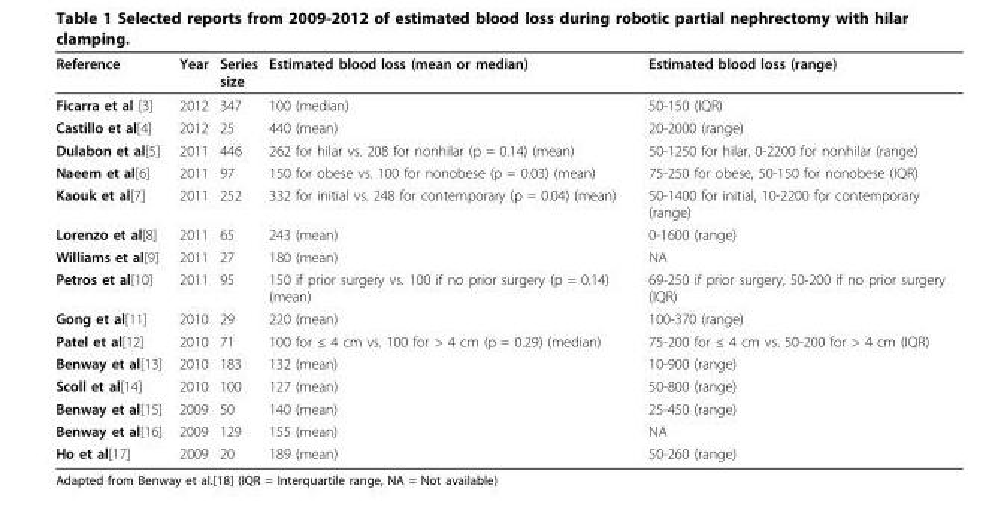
<table><thead><tr><td>Reference</td><td>Year</td><td>Series size</td><td>Estimated blood loss (mean or median)</td><td>Estimated blood loss (range)</td></tr></thead><tbody><tr><td>Ficarra et al [3]</td><td>2012</td><td>347</td><td>100 (median)</td><td>50-150 (IQR)</td></tr><tr><td>Castillo et al[4]</td><td>2012</td><td>25</td><td>440 (mean)</td><td>20-2000 (range)</td></tr><tr><td>Dulabon et al[5]</td><td>2011</td><td>446</td><td>262 for hilar vs. 208 for nonhilar (p = 0.14) (mean)</td><td>50-1250 for hilar, 0-2200 for nonhilar (range)</td></tr><tr><td>Naeem et al[6]</td><td>2011</td><td>97</td><td>150 for obese vs. 100 for nonobese (p = 0.03) (mean)</td><td>75-250 for obese, 50-150 for nonobese (IQR)</td></tr><tr><td>Kaouk et al[7]</td><td>2011</td><td>252</td><td>332 for initial vs. 248 for contemporary (p = 0.04) (mean)</td><td>50-1400 for initial, 10-2200 for contemporary (range)</td></tr><tr><td>Lorenzo et al[8]</td><td>2011</td><td>65</td><td>243 (mean)</td><td>0-1600 (range)</td></tr><tr><td>Williams et al[9]</td><td>2011</td><td>27</td><td>180 (mean)</td><td>NA</td></tr><tr><td>Petros et al[10]</td><td>2011</td><td>95</td><td>150 if prior surgery vs. 100 if no prior surgery (p = 0.14) (mean)</td><td>69-250 if prior surgery, 50-200 if no prior surgery (IQR)</td></tr><tr><td>Gong et al[11]</td><td>2010</td><td>29</td><td>220 (mean)</td><td>100-370 (range)</td></tr><tr><td>Patel et al[12]</td><td>2010</td><td>71</td><td>100 for ≤ 4 cm vs. 100 for &gt; 4 cm (p = 0.29) (median)</td><td>75-200 for ≤ 4 cm vs. 50-200 for &gt; 4 cm (IQR)</td></tr><tr><td>Benway et al[13]</td><td>2010</td><td>183</td><td>132 (mean)</td><td>10-900 (range)</td></tr><tr><td>Scoll et al[14]</td><td>2010</td><td>100</td><td>127 (mean)</td><td>50-800 (range)</td></tr><tr><td>Benway et al[15]</td><td>2009</td><td>50</td><td>140 (mean)</td><td>25-450 (range)</td></tr><tr><td>Benway et al[16]</td><td>2009</td><td>129</td><td>155 (mean)</td><td>NA</td></tr><tr><td>Ho et al[17]</td><td>2009</td><td>20</td><td>189 (mean)</td><td>50-260 (range)</td></tr></tbody></table>